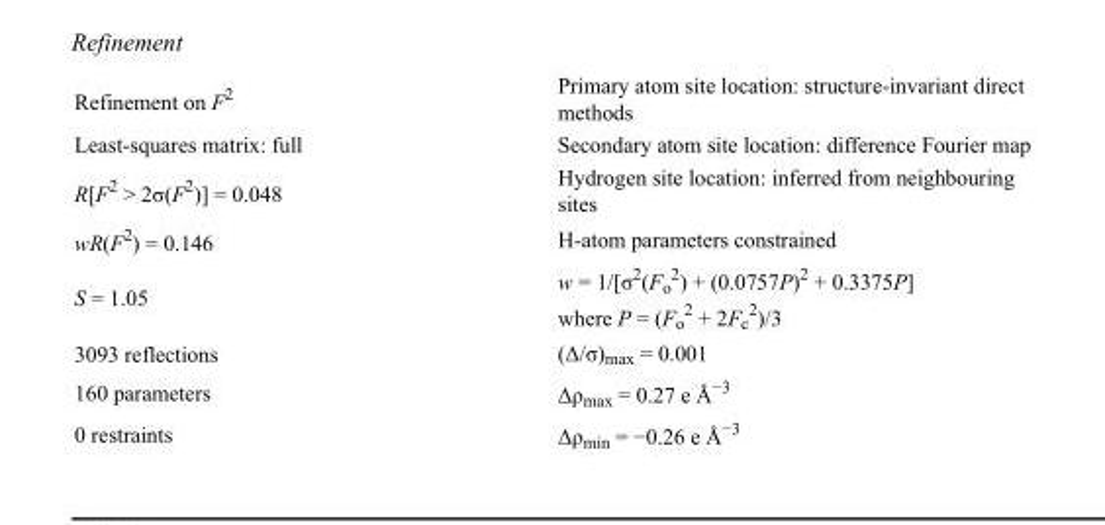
<table><tbody><tr><td>Refinement on F<sup>2</sup></td><td>Primary atom site location: structure-invariant direct methods</td></tr><tr><td>Least-squares matrix: full</td><td>Secondary atom site location: difference Fourier map</td></tr><tr><td>R[F<sup>2</sup> &gt; 2σ(F<sup>2</sup>)] = 0.048</td><td>Hydrogen site location: inferred from neighbouring sites</td></tr><tr><td>wR(F<sup>2</sup>) = 0.146</td><td>H-atom parameters constrained</td></tr><tr><td>S = 1.05</td><td>w = 1/[σ<sup>2</sup>(F<sub>o</sub> <sup>2</sup>) + (0.0757P)<sup>2</sup> + 0.3375P] where P = (F<sub>o</sub> <sup>2</sup> + 2F<sub>c</sub> <sup>2</sup>)/3</td></tr><tr><td>3093 reflections</td><td>(Δ/σ)<sub>max</sub> = 0.001</td></tr><tr><td>160 parameters</td><td>Δρ<sub>max</sub> = 0.27 e Å<sup>−3</sup></td></tr><tr><td>0 restraints</td><td>Δρ<sub>min</sub> = −0.26 e Å<sup>−3</sup></td></tr></tbody></table>